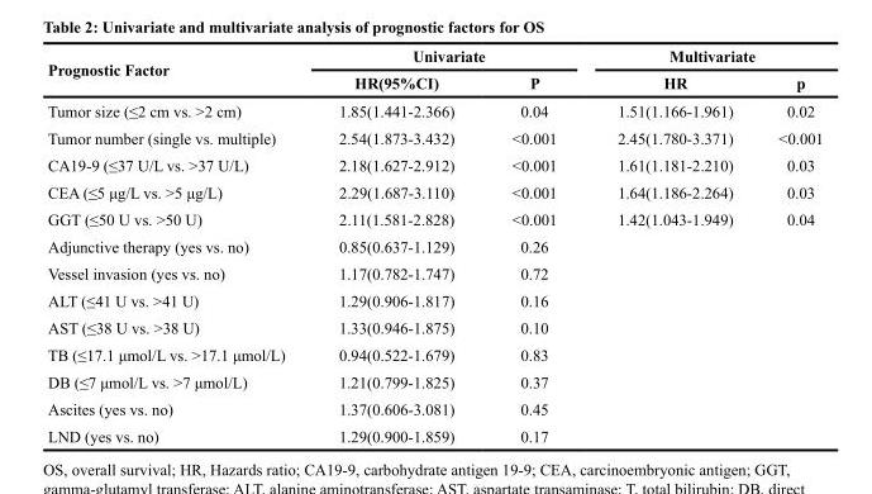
<table><thead><tr><td rowspan="2">Prognostic Factor</td><td colspan="2">Univariate</td><td colspan="2">Multivariate</td></tr><tr><td>HR(95%CI)</td><td>P</td><td>HR</td><td>p</td></tr></thead><tbody><tr><td>Tumor size (≤2 cm vs. &gt;2 cm)</td><td>1.85(1.441-2.366)</td><td>0.04</td><td>1.51(1.166-1.961)</td><td>0.02</td></tr><tr><td>Tumor number (single vs. multiple)</td><td>2.54(1.873-3.432)</td><td>&lt;0.001</td><td>2.45(1.780-3.371)</td><td>&lt;0.001</td></tr><tr><td>CA19-9 (≤37 U/L vs. &gt;37 U/L)</td><td>2.18(1.627-2.912)</td><td>&lt;0.001</td><td>1.61(1.181-2.210)</td><td>0.03</td></tr><tr><td>CEA (≤5 μg/L vs. &gt;5 μg/L)</td><td>2.29(1.687-3.110)</td><td>&lt;0.001</td><td>1.64(1.186-2.264)</td><td>0.03</td></tr><tr><td>GGT (≤50 U vs. &gt;50 U)</td><td>2.11(1.581-2.828)</td><td>&lt;0.001</td><td>1.42(1.043-1.949)</td><td>0.04</td></tr><tr><td>Adjunctive therapy (yes vs. no)</td><td>0.85(0.637-1.129)</td><td>0.26</td><td></td><td></td></tr><tr><td>Vessel invasion (yes vs. no)</td><td>1.17(0.782-1.747)</td><td>0.72</td><td></td><td></td></tr><tr><td>ALT (≤41 U vs. &gt;41 U)</td><td>1.29(0.906-1.817)</td><td>0.16</td><td></td><td></td></tr><tr><td>AST (≤38 U vs. &gt;38 U)</td><td>1.33(0.946-1.875)</td><td>0.10</td><td></td><td></td></tr><tr><td>TB (≤17.1 μmol/L vs. &gt;17.1 μmol/L)</td><td>0.94(0.522-1.679)</td><td>0.83</td><td></td><td></td></tr><tr><td>DB (≤7 μmol/L vs. &gt;7 μmol/L)</td><td>1.21(0.799-1.825)</td><td>0.37</td><td></td><td></td></tr><tr><td>Ascites (yes vs. no)</td><td>1.37(0.606-3.081)</td><td>0.45</td><td></td><td></td></tr><tr><td>LND (yes vs. no)</td><td>1.29(0.900-1.859)</td><td>0.17</td><td></td><td></td></tr></tbody></table>